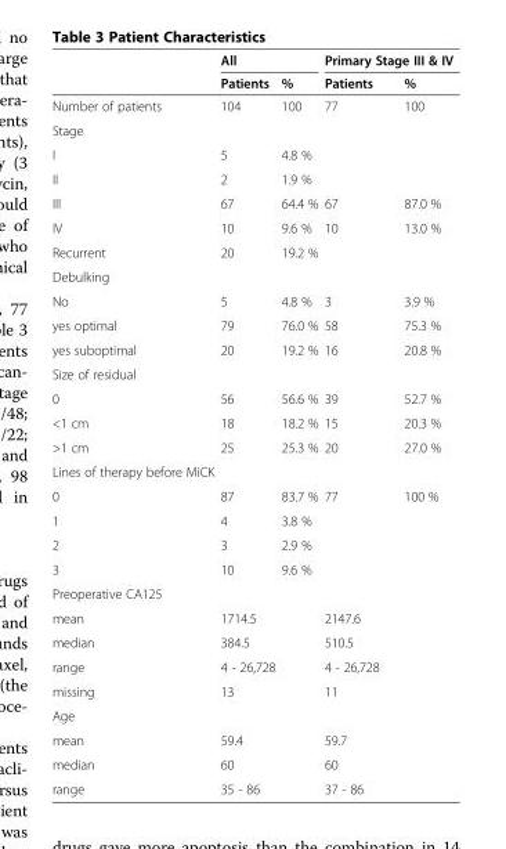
<table><thead><tr><td rowspan="2"></td><td colspan="2">All</td><td colspan="2">Primary Stage III &amp; IV</td></tr><tr><td>Patients</td><td>%</td><td>Patients</td><td>%</td></tr></thead><tbody><tr><td>Number of patients</td><td>104</td><td>100</td><td>77</td><td>100</td></tr><tr><td colspan="5">Stage</td></tr><tr><td>I</td><td>5</td><td>4.8 %</td><td></td><td></td></tr><tr><td>II</td><td>2</td><td>1.9 %</td><td></td><td></td></tr><tr><td>III</td><td>67</td><td>64.4 %</td><td>67</td><td>87.0 %</td></tr><tr><td>IV</td><td>10</td><td>9.6 %</td><td>10</td><td>13.0 %</td></tr><tr><td>Recurrent</td><td>20</td><td>19.2 %</td><td></td><td></td></tr><tr><td colspan="5">Debulking</td></tr><tr><td>No</td><td>5</td><td>4.8 %</td><td>3</td><td>3.9 %</td></tr><tr><td>yes optimal</td><td>79</td><td>76.0 %</td><td>58</td><td>75.3 %</td></tr><tr><td>yes suboptimal</td><td>20</td><td>19.2 %</td><td>16</td><td>20.8 %</td></tr><tr><td colspan="5">Size of residual</td></tr><tr><td>0</td><td>56</td><td>56.6 %</td><td>39</td><td>52.7 %</td></tr><tr><td>&lt;1 cm</td><td>18</td><td>18.2 %</td><td>15</td><td>20.3 %</td></tr><tr><td>&gt;1 cm</td><td>25</td><td>25.3 %</td><td>20</td><td>27.0 %</td></tr><tr><td colspan="5">Lines of therapy before MiCK</td></tr><tr><td>0</td><td>87</td><td>83.7 %</td><td>77</td><td>100 %</td></tr><tr><td>1</td><td>4</td><td>3.8 %</td><td></td><td></td></tr><tr><td>2</td><td>3</td><td>2.9 %</td><td></td><td></td></tr><tr><td>3</td><td>10</td><td>9.6 %</td><td></td><td></td></tr><tr><td colspan="5">Preoperative CA125</td></tr><tr><td>mean</td><td>1714.5</td><td></td><td>2147.6</td><td></td></tr><tr><td>median</td><td>384.5</td><td></td><td>510.5</td><td></td></tr><tr><td>range</td><td>4 - 26,728</td><td></td><td>4 - 26,728</td><td></td></tr><tr><td>missing</td><td>13</td><td></td><td>11</td><td></td></tr><tr><td colspan="5">Age</td></tr><tr><td>mean</td><td>59.4</td><td></td><td>59.7</td><td></td></tr><tr><td>median</td><td>60</td><td></td><td>60</td><td></td></tr><tr><td>range</td><td>35 - 86</td><td></td><td>37 - 86</td><td></td></tr></tbody></table>